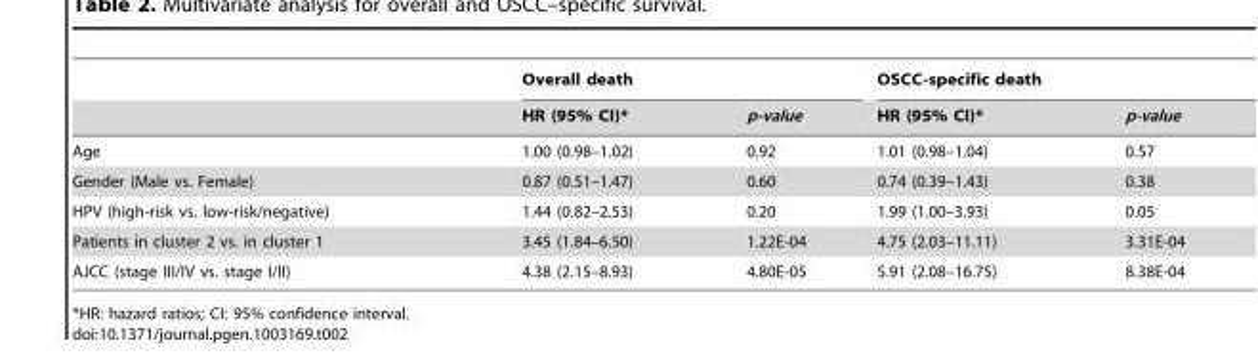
<table><thead><tr><td rowspan="2"></td><td colspan="2">Overall death</td><td colspan="2">OSCC-specific death</td></tr><tr><td>HR (95% CI)*</td><td>p-value</td><td>HR (95% CI)*</td><td>p-value</td></tr></thead><tbody><tr><td>Age</td><td>1.00 (0.98–1.02)</td><td>0.92</td><td>1.01 (0.98–1.04)</td><td>0.57</td></tr><tr><td>Gender (Male vs. Female)</td><td>0.87 (0.51–1.47)</td><td>0.60</td><td>0.74 (0.39–1.43)</td><td>0.38</td></tr><tr><td>HPV (high-risk vs. low-risk/negative)</td><td>1.44 (0.82–2.53)</td><td>0.20</td><td>1.99 (1.00–3.93)</td><td>0.05</td></tr><tr><td>Patients in cluster 2 vs. in cluster 1</td><td>3.45 (1.84–6.50)</td><td>1.22E-04</td><td>4.75 (2.03–11.11)</td><td>3.31E-04</td></tr><tr><td>AJCC (stage III/IV vs. stage I/II)</td><td>4.38 (2.15–8.93)</td><td>4.80E-05</td><td>5.91 (2.08–16.75)</td><td>8.38E-04</td></tr></tbody></table>